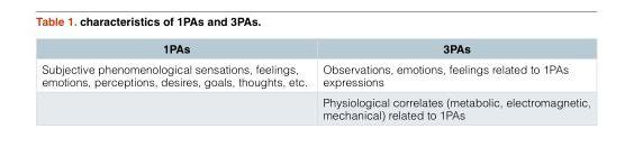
<table><thead><tr><td>1PAs</td><td>3PAs</td></tr></thead><tbody><tr><td rowspan="2">Subjective phenomenological sensations, feelings, emotions, perceptions, desires, goals, thoughts, etc.</td><td>Observations, emotions, feelings related to 1PAs expressions</td></tr><tr><td>Physiological correlates (metabolic, electromagnetic, mechanical) related to 1PAs</td></tr></tbody></table>